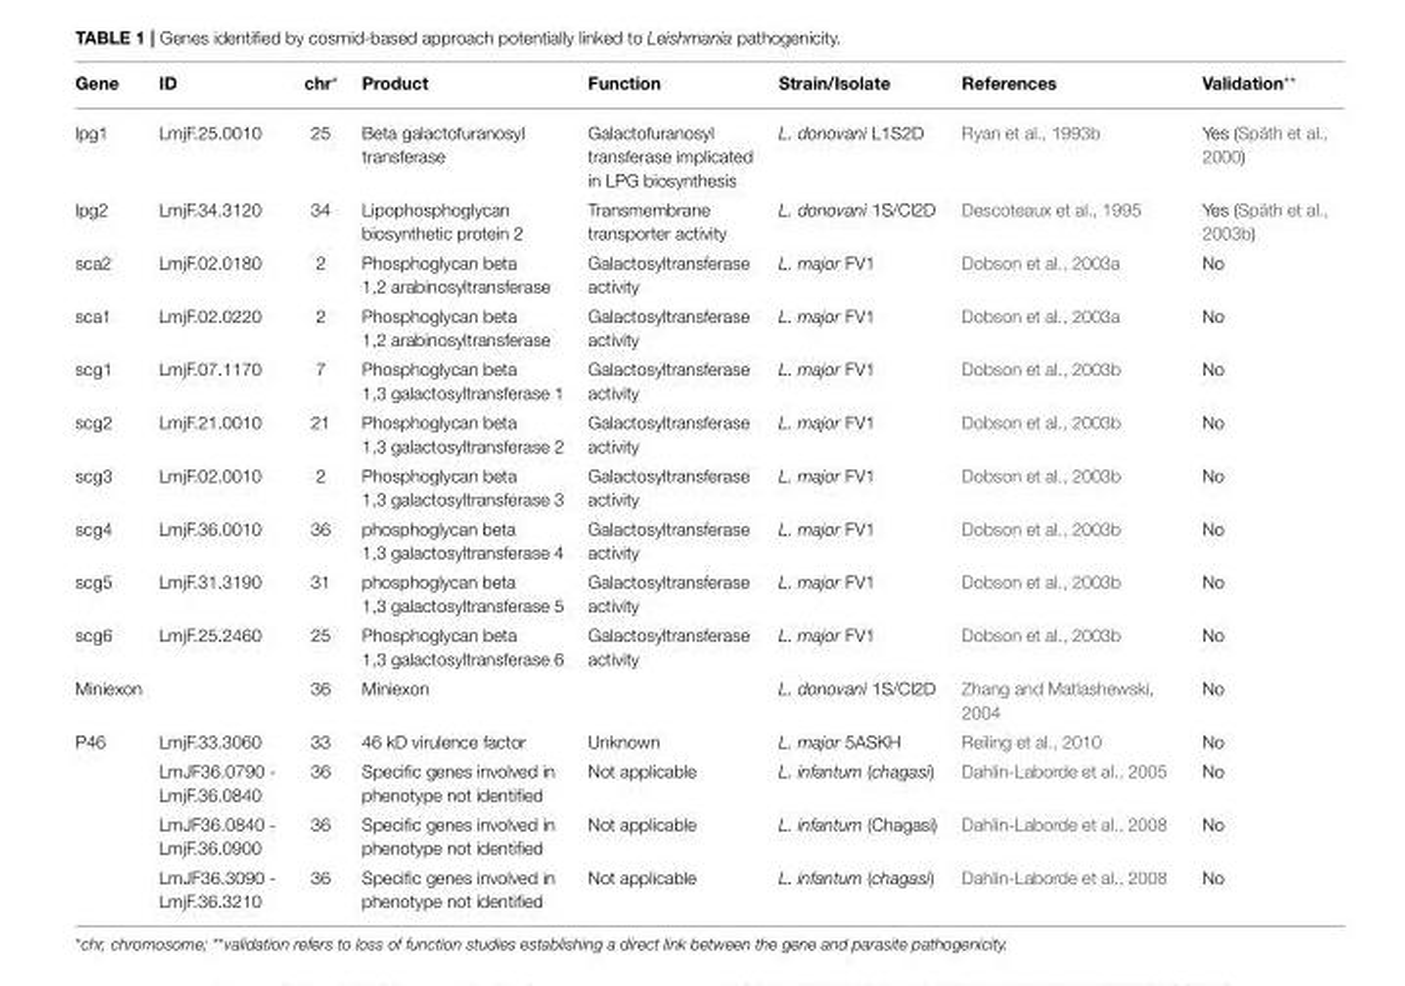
<table><thead><tr><td>Gene</td><td>ID</td><td>chr*</td><td>Product</td><td>Function</td><td>Strain/Isolate</td><td>References</td><td>Validation**</td></tr></thead><tbody><tr><td>lpg1</td><td>LmjF.25.0010</td><td>25</td><td>Beta galactofuranosyl transferase</td><td>Galactofuranosyl transferase implicated in LPG biosynthesis</td><td>L. donovani L1S2D</td><td>Ryan et al., 1993b</td><td>Yes (Späth et al., 2000)</td></tr><tr><td>lpg2</td><td>LmjF.34.3120</td><td>34</td><td>Lipophosphoglycan biosynthetic protein 2</td><td>Transmembrane transporter activity</td><td>L. donovani 1S/Cl2D</td><td>Descoteaux et al., 1995</td><td>Yes (Späth et al., 2003b)</td></tr><tr><td>sca2</td><td>LmjF.02.0180</td><td>2</td><td>Phosphoglycan beta 1,2 arabinosyltransferase</td><td>Galactosyltransferase activity</td><td>L. major FV1</td><td>Dobson et al., 2003a</td><td>No</td></tr><tr><td>sca1</td><td>LmjF.02.0220</td><td>2</td><td>Phosphoglycan beta 1,2 arabinosyltransferase</td><td>Galactosyltransferase activity</td><td>L. major FV1</td><td>Dobson et al., 2003a</td><td>No</td></tr><tr><td>scg1</td><td>LmjF.07.1170</td><td>7</td><td>Phosphoglycan beta 1,3 galactosyltransferase 1</td><td>Galactosyltransferase activity</td><td>L. major FV1</td><td>Dobson et al., 2003b</td><td>No</td></tr><tr><td>scg2</td><td>LmjF.21.0010</td><td>21</td><td>Phosphoglycan beta 1,3 galactosyltransferase 2</td><td>Galactosyltransferase activity</td><td>L. major FV1</td><td>Dobson et al., 2003b</td><td>No</td></tr><tr><td>scg3</td><td>LmjF.02.0010</td><td>2</td><td>Phosphoglycan beta 1,3 galactosyltransferase 3</td><td>Galactosyltransferase activity</td><td>L. major FV1</td><td>Dobson et al., 2003b</td><td>No</td></tr><tr><td>scg4</td><td>LmjF.36.0010</td><td>36</td><td>phosphoglycan beta 1,3 galactosyltransferase 4</td><td>Galactosyltransferase activity</td><td>L. major FV1</td><td>Dobson et al., 2003b</td><td>No</td></tr><tr><td>scg5</td><td>LmjF.31.3190</td><td>31</td><td>phosphoglycan beta 1,3 galactosyltransferase 5</td><td>Galactosyltransferase activity</td><td>L. major FV1</td><td>Dobson et al., 2003b</td><td>No</td></tr><tr><td>scg6</td><td>LmjF.25.2460</td><td>25</td><td>Phosphoglycan beta 1,3 galactosyltransferase 6</td><td>Galactosyltransferase activity</td><td>L. major FV1</td><td>Dobson et al., 2003b</td><td>No</td></tr><tr><td>Miniexon</td><td></td><td>36</td><td>Miniexon</td><td></td><td>L. donovani 1S/Cl2D</td><td>Zhang and Matlashewski, 2004</td><td>No</td></tr><tr><td rowspan="4">P46</td><td>LmjF.33.3060</td><td>33</td><td>46 kD virulence factor</td><td>Unknown</td><td>L. major 5ASKH</td><td>Reiling et al., 2010</td><td>No</td></tr><tr><td>LmJF36.0790 - LmjF.36.0840</td><td>36</td><td>Specific genes involved in phenotype not identified</td><td>Not applicable</td><td>L. infantum (chagasi)</td><td>Dahlin-Laborde et al., 2005</td><td>No</td></tr><tr><td>LmJF36.0840 - LmjF.36.0900</td><td>36</td><td>Specific genes involved in phenotype not identified</td><td>Not applicable</td><td>L. infantum (Chagasi)</td><td>Dahlin-Laborde et al., 2008</td><td>No</td></tr><tr><td>LmJF36.3090 - LmjF.36.3210</td><td>36</td><td>Specific genes involved in phenotype not identified</td><td>Not applicable</td><td>L. infantum (chagasi)</td><td>Dahlin-Laborde et al., 2008</td><td>No</td></tr></tbody></table>